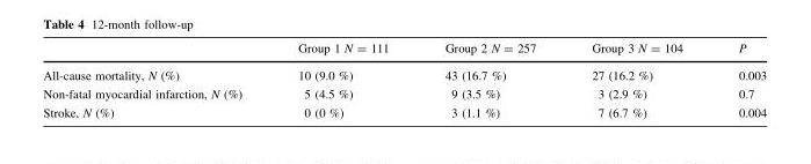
<table><thead><tr><td></td><td>Group 1 N = 111</td><td>Group 2 N = 257</td><td>Group 3 N = 104</td><td>P</td></tr></thead><tbody><tr><td>All-cause mortality, N (%)</td><td>10 (9.0 %)</td><td>43 (16.7 %)</td><td>27 (16.2 %)</td><td>0.003</td></tr><tr><td>Non-fatal myocardial infarction, N (%)</td><td>5 (4.5 %)</td><td>9 (3.5 %)</td><td>3 (2.9 %)</td><td>0.7</td></tr><tr><td>Stroke, N (%)</td><td>0 (0 %)</td><td>3 (1.1 %)</td><td>7 (6.7 %)</td><td>0.004</td></tr></tbody></table>